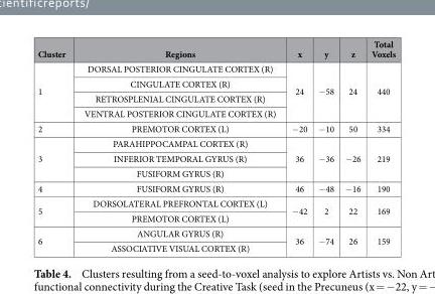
<table><thead><tr><td>Cluster</td><td>Regions</td><td>x</td><td>y</td><td>z</td><td>Total Voxels</td></tr></thead><tbody><tr><td rowspan="4">1</td><td>DORSAL POSTERIOR CINGULATE CORTEX (R)</td><td rowspan="4">24</td><td rowspan="4">− 58</td><td rowspan="4">24</td><td rowspan="4">440</td></tr><tr><td>CINGULATE CORTEX (R)</td></tr><tr><td>RETROSPLENIAL CINGULATE CORTEX (R)</td></tr><tr><td>VENTRAL POSTERIOR CINGULATE CORTEX (R)</td></tr><tr><td>2</td><td>PREMOTOR CORTEX (L)</td><td>− 20</td><td>− 10</td><td>50</td><td>334</td></tr><tr><td rowspan="3">3</td><td>PARAHIPPOCAMPAL CORTEX (R)</td><td rowspan="3">36</td><td rowspan="3">− 36</td><td rowspan="3">− 26</td><td rowspan="3">219</td></tr><tr><td>INFERIOR TEMPORAL GYRUS (R)</td></tr><tr><td>FUSIFORM GYRUS (R)</td></tr><tr><td>4</td><td>FUSIFORM GYRUS (R)</td><td>46</td><td>− 48</td><td>− 16</td><td>190</td></tr><tr><td rowspan="2">5</td><td>DORSOLATERAL PREFRONTAL CORTEX (L)</td><td rowspan="2">− 42</td><td rowspan="2">2</td><td rowspan="2">22</td><td rowspan="2">169</td></tr><tr><td>PREMOTOR CORTEX (L)</td></tr><tr><td rowspan="2">6</td><td>ANGULAR GYRUS (R)</td><td rowspan="2">36</td><td rowspan="2">− 74</td><td rowspan="2">26</td><td rowspan="2">159</td></tr><tr><td>ASSOCIATIVE VISUAL CORTEX (R)</td></tr></tbody></table>